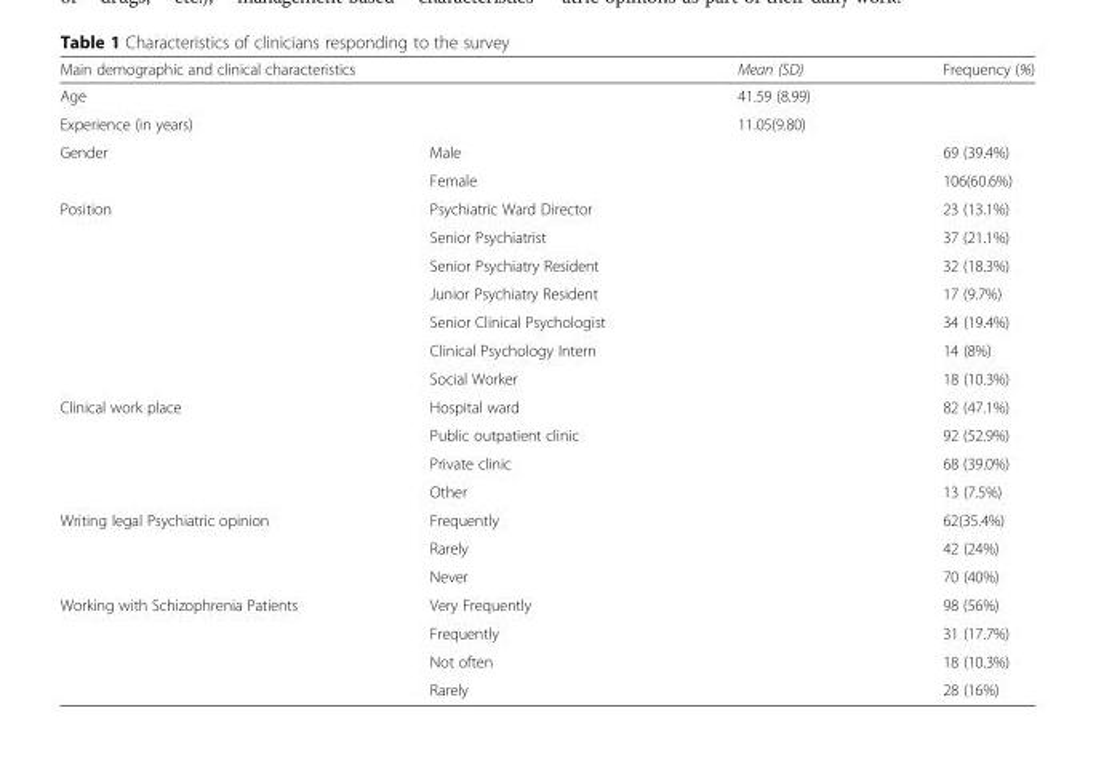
<table><thead><tr><td colspan="2">Main demographic and clinical characteristics</td><td rowspan="2">Mean (SD) 41.59 (8.99)</td><td rowspan="2">Frequency (%)</td></tr><tr><td>Age</td><td></td></tr></thead><tbody><tr><td>Experience (in years)</td><td></td><td>11.05(9.80)</td><td></td></tr><tr><td rowspan="2">Gender</td><td>Male</td><td></td><td>69 (39.4%)</td></tr><tr><td>Female</td><td></td><td>106(60.6%)</td></tr><tr><td rowspan="7">Position</td><td>Psychiatric Ward Director</td><td></td><td>23 (13.1%)</td></tr><tr><td>Senior Psychiatrist</td><td></td><td>37 (21.1%)</td></tr><tr><td>Senior Psychiatry Resident</td><td></td><td>32 (18.3%)</td></tr><tr><td>Junior Psychiatry Resident</td><td></td><td>17 (9.7%)</td></tr><tr><td>Senior Clinical Psychologist</td><td></td><td>34 (19.4%)</td></tr><tr><td>Clinical Psychology Intern</td><td></td><td>14 (8%)</td></tr><tr><td>Social Worker</td><td></td><td>18 (10.3%)</td></tr><tr><td rowspan="4">Clinical work place</td><td>Hospital ward</td><td></td><td>82 (47.1%)</td></tr><tr><td>Public outpatient clinic</td><td></td><td>92 (52.9%)</td></tr><tr><td>Private clinic</td><td></td><td>68 (39.0%)</td></tr><tr><td>Other</td><td></td><td>13 (7.5%)</td></tr><tr><td rowspan="3">Writing legal Psychiatric opinion</td><td>Frequently</td><td></td><td>62(35.4%)</td></tr><tr><td>Rarely</td><td></td><td>42 (24%)</td></tr><tr><td>Never</td><td></td><td>70 (40%)</td></tr><tr><td rowspan="4">Working with Schizophrenia Patients</td><td>Very Frequently</td><td></td><td>98 (56%)</td></tr><tr><td>Frequently</td><td></td><td>31 (17.7%)</td></tr><tr><td>Not often</td><td></td><td>18 (10.3%)</td></tr><tr><td>Rarely</td><td></td><td>28 (16%)</td></tr></tbody></table>